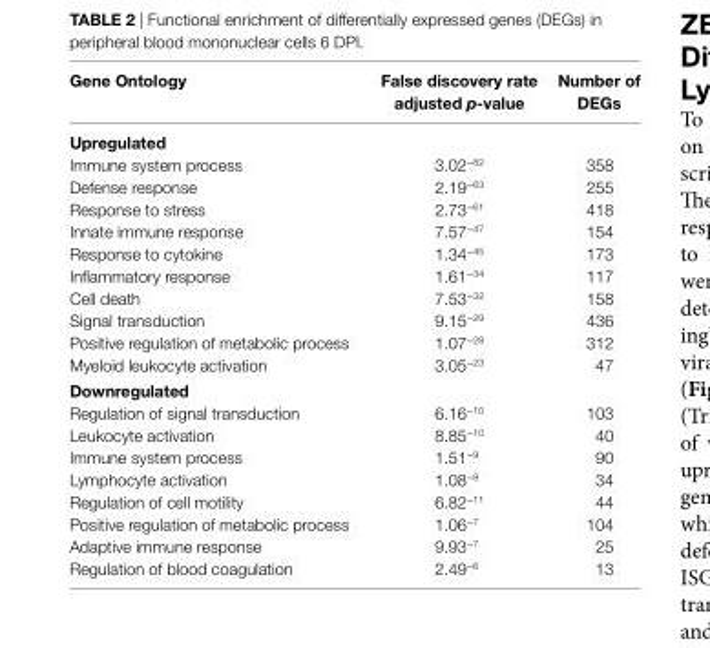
<table><thead><tr><td>gene Ontology</td><td>False discovery rate adjusted p-value</td><td>number of Degs</td></tr></thead><tbody><tr><td colspan="3">Upregulated</td></tr><tr><td>Immune system process</td><td>3.02<sup>−82</sup></td><td>358</td></tr><tr><td>Defense response</td><td>2.19<sup>−63</sup></td><td>255</td></tr><tr><td>Response to stress</td><td>2.73<sup>−61</sup></td><td>418</td></tr><tr><td>Innate immune response</td><td>7.57<sup>−47</sup></td><td>154</td></tr><tr><td>Response to cytokine</td><td>1.34<sup>−45</sup></td><td>173</td></tr><tr><td>Inflammatory response</td><td>1.61<sup>−34</sup></td><td>117</td></tr><tr><td>Cell death</td><td>7.53<sup>−32</sup></td><td>158</td></tr><tr><td>Signal transduction</td><td>9.15<sup>−29</sup></td><td>436</td></tr><tr><td>Positive regulation of metabolic process</td><td>1.07<sup>−28</sup></td><td>312</td></tr><tr><td>Myeloid leukocyte activation</td><td>3.05<sup>−23</sup></td><td>47</td></tr><tr><td colspan="3">Downregulated</td></tr><tr><td>Regulation of signal transduction</td><td>6.16<sup>−10</sup></td><td>103</td></tr><tr><td>Leukocyte activation</td><td>8.85<sup>−10</sup></td><td>40</td></tr><tr><td>Immune system process</td><td>1.51<sup>−9</sup></td><td>90</td></tr><tr><td>Lymphocyte activation</td><td>1.08<sup>−8</sup></td><td>34</td></tr><tr><td>Regulation of cell motility</td><td>6.82<sup>−11</sup></td><td>44</td></tr><tr><td>Positive regulation of metabolic process</td><td>1.06<sup>−7</sup></td><td>104</td></tr><tr><td>Adaptive immune response</td><td>9.93<sup>−7</sup></td><td>25</td></tr><tr><td>Regulation of blood coagulation</td><td>2.49<sup>−6</sup></td><td>13</td></tr></tbody></table>